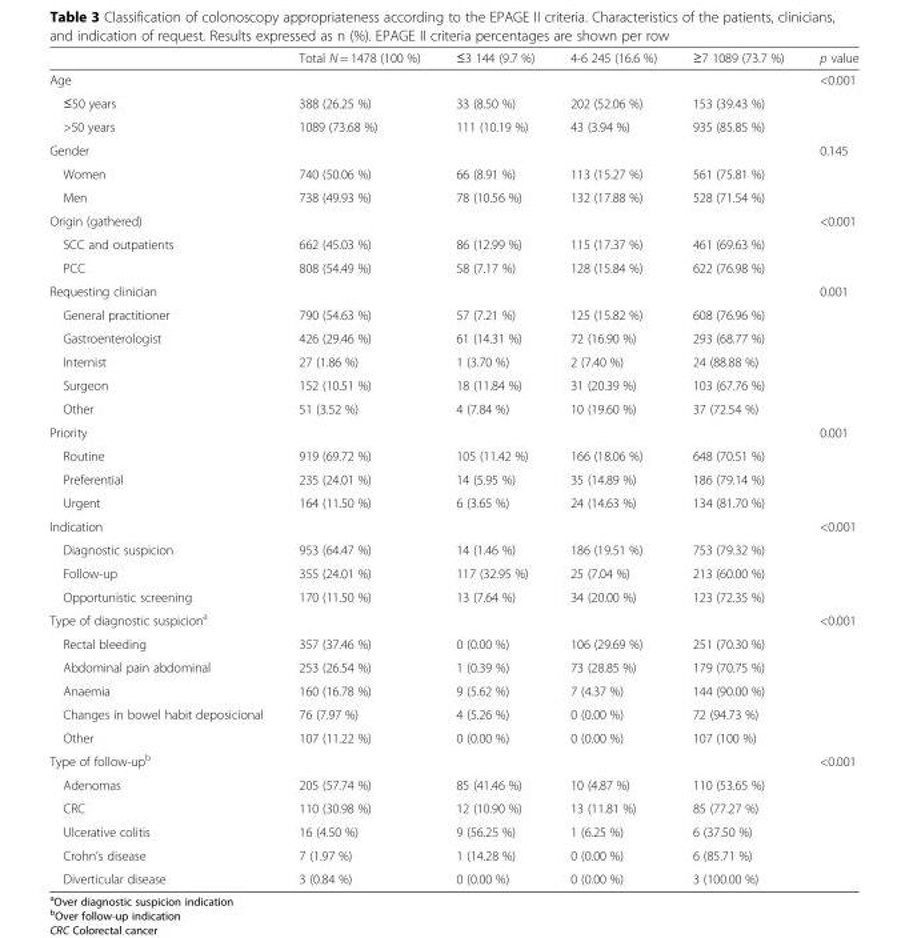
<table><thead><tr><td></td><td>Total N = 1478 (100 %)</td><td>≤3 144 (9.7 %)</td><td>4-6 245 (16.6 %)</td><td>≥7 1089 (73.7 %)</td><td>p value</td></tr></thead><tbody><tr><td>Age</td><td></td><td></td><td></td><td></td><td>&lt;0.001</td></tr><tr><td>≤50 years</td><td>388 (26.25 %)</td><td>33 (8.50 %)</td><td>202 (52.06 %)</td><td>153 (39.43 %)</td><td></td></tr><tr><td>&gt;50 years</td><td>1089 (73.68 %)</td><td>111 (10.19 %)</td><td>43 (3.94 %)</td><td>935 (85.85 %)</td><td></td></tr><tr><td>Gender</td><td></td><td></td><td></td><td></td><td>0.145</td></tr><tr><td>Women</td><td>740 (50.06 %)</td><td>66 (8.91 %)</td><td>113 (15.27 %)</td><td>561 (75.81 %)</td><td></td></tr><tr><td>Men</td><td>738 (49.93 %)</td><td>78 (10.56 %)</td><td>132 (17.88 %)</td><td>528 (71.54 %)</td><td></td></tr><tr><td>Origin (gathered)</td><td></td><td></td><td></td><td></td><td>&lt;0.001</td></tr><tr><td>SCC and outpatients</td><td>662 (45.03 %)</td><td>86 (12.99 %)</td><td>115 (17.37 %)</td><td>461 (69.63 %)</td><td></td></tr><tr><td>PCC</td><td>808 (54.49 %)</td><td>58 (7.17 %)</td><td>128 (15.84 %)</td><td>622 (76.98 %)</td><td></td></tr><tr><td>Requesting clinician</td><td></td><td></td><td></td><td></td><td>0.001</td></tr><tr><td>General practitioner</td><td>790 (54.63 %)</td><td>57 (7.21 %)</td><td>125 (15.82 %)</td><td>608 (76.96 %)</td><td></td></tr><tr><td>Gastroenterologist</td><td>426 (29.46 %)</td><td>61 (14.31 %)</td><td>72 (16.90 %)</td><td>293 (68.77 %)</td><td></td></tr><tr><td>Internist</td><td>27 (1.86 %)</td><td>1 (3.70 %)</td><td>2 (7.40 %)</td><td>24 (88.88 %)</td><td></td></tr><tr><td>Surgeon</td><td>152 (10.51 %)</td><td>18 (11.84 %)</td><td>31 (20.39 %)</td><td>103 (67.76 %)</td><td></td></tr><tr><td>Other</td><td>51 (3.52 %)</td><td>4 (7.84 %)</td><td>10 (19.60 %)</td><td>37 (72.54 %)</td><td></td></tr><tr><td>Priority</td><td></td><td></td><td></td><td></td><td>0.001</td></tr><tr><td>Routine</td><td>919 (69.72 %)</td><td>105 (11.42 %)</td><td>166 (18.06 %)</td><td>648 (70.51 %)</td><td></td></tr><tr><td>Preferential</td><td>235 (24.01 %)</td><td>14 (5.95 %)</td><td>35 (14.89 %)</td><td>186 (79.14 %)</td><td></td></tr><tr><td>Urgent</td><td>164 (11.50 %)</td><td>6 (3.65 %)</td><td>24 (14.63 %)</td><td>134 (81.70 %)</td><td></td></tr><tr><td>Indication</td><td></td><td></td><td></td><td></td><td>&lt;0.001</td></tr><tr><td>Diagnostic suspicion</td><td>953 (64.47 %)</td><td>14 (1.46 %)</td><td>186 (19.51 %)</td><td>753 (79.32 %)</td><td></td></tr><tr><td>Follow-up</td><td>355 (24.01 %)</td><td>117 (32.95 %)</td><td>25 (7.04 %)</td><td>213 (60.00 %)</td><td></td></tr><tr><td>Opportunistic screening</td><td>170 (11.50 %)</td><td>13 (7.64 %)</td><td>34 (20.00 %)</td><td>123 (72.35 %)</td><td></td></tr><tr><td>Type of diagnostic suspicion<sup>a</sup></td><td></td><td></td><td></td><td></td><td>&lt;0.001</td></tr><tr><td>Rectal bleeding</td><td>357 (37.46 %)</td><td>0 (0.00 %)</td><td>106 (29.69 %)</td><td>251 (70.30 %)</td><td></td></tr><tr><td>Abdominal pain abdominal</td><td>253 (26.54 %)</td><td>1 (0.39 %)</td><td>73 (28.85 %)</td><td>179 (70.75 %)</td><td></td></tr><tr><td>Anaemia</td><td>160 (16.78 %)</td><td>9 (5.62 %)</td><td>7 (4.37 %)</td><td>144 (90.00 %)</td><td></td></tr><tr><td>Changes in bowel habit deposicional</td><td>76 (7.97 %)</td><td>4 (5.26 %)</td><td>0 (0.00 %)</td><td>72 (94.73 %)</td><td></td></tr><tr><td>Other</td><td>107 (11.22 %)</td><td>0 (0.00 %)</td><td>0 (0.00 %)</td><td>107 (100 %)</td><td></td></tr><tr><td>Type of follow-up<sup>b</sup></td><td></td><td></td><td></td><td></td><td>&lt;0.001</td></tr><tr><td>Adenomas</td><td>205 (57.74 %)</td><td>85 (41.46 %)</td><td>10 (4.87 %)</td><td>110 (53.65 %)</td><td></td></tr><tr><td>CRC</td><td>110 (30.98 %)</td><td>12 (10.90 %)</td><td>13 (11.81 %)</td><td>85 (77.27 %)</td><td></td></tr><tr><td>Ulcerative colitis</td><td>16 (4.50 %)</td><td>9 (56.25 %)</td><td>1 (6.25 %)</td><td>6 (37.50 %)</td><td></td></tr><tr><td>Crohn’s disease</td><td>7 (1.97 %)</td><td>1 (14.28 %)</td><td>0 (0.00 %)</td><td>6 (85.71 %)</td><td></td></tr><tr><td>Diverticular disease</td><td>3 (0.84 %)</td><td>0 (0.00 %)</td><td>0 (0.00 %)</td><td>3 (100.00 %)</td><td></td></tr></tbody></table>